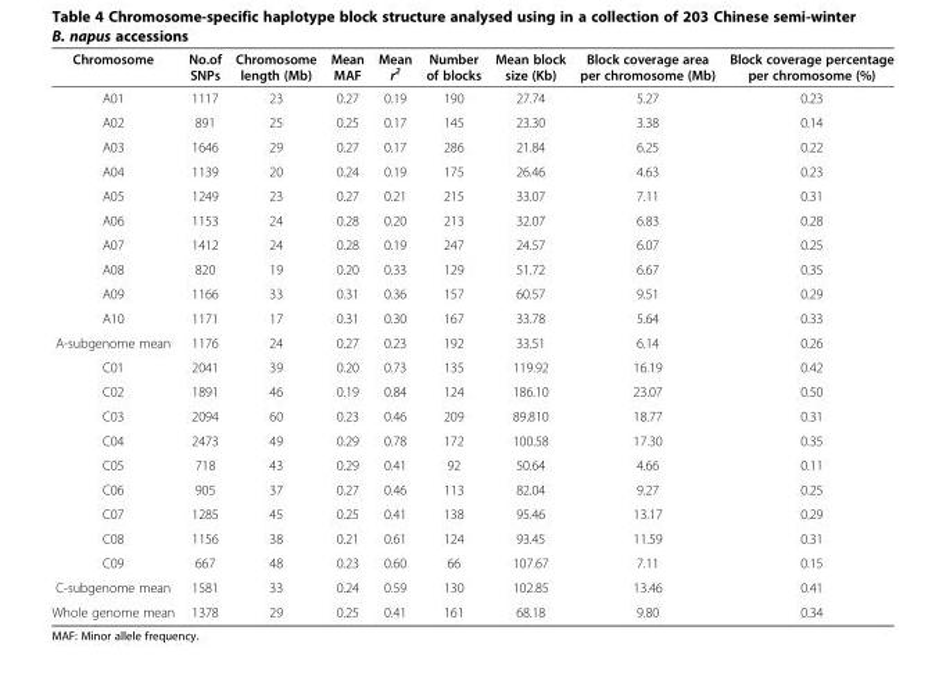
<table><thead><tr><td>Chromosome</td><td>No.of SNPs</td><td>Chromosome length (Mb)</td><td>Mean MAF</td><td>Mean r<sup>2</sup></td><td>Number of blocks</td><td>Mean block size (Kb)</td><td>Block coverage area per chromosome (Mb)</td><td>Block coverage percentage per chromosome (%)</td></tr></thead><tbody><tr><td>A01</td><td>1117</td><td>23</td><td>0.27</td><td>0.19</td><td>190</td><td>27.74</td><td>5.27</td><td>0.23</td></tr><tr><td>A02</td><td>891</td><td>25</td><td>0.25</td><td>0.17</td><td>145</td><td>23.30</td><td>3.38</td><td>0.14</td></tr><tr><td>A03</td><td>1646</td><td>29</td><td>0.27</td><td>0.17</td><td>286</td><td>21.84</td><td>6.25</td><td>0.22</td></tr><tr><td>A04</td><td>1139</td><td>20</td><td>0.24</td><td>0.19</td><td>175</td><td>26.46</td><td>4.63</td><td>0.23</td></tr><tr><td>A05</td><td>1249</td><td>23</td><td>0.27</td><td>0.21</td><td>215</td><td>33.07</td><td>7.11</td><td>0.31</td></tr><tr><td>A06</td><td>1153</td><td>24</td><td>0.28</td><td>0.20</td><td>213</td><td>32.07</td><td>6.83</td><td>0.28</td></tr><tr><td>A07</td><td>1412</td><td>24</td><td>0.28</td><td>0.19</td><td>247</td><td>24.57</td><td>6.07</td><td>0.25</td></tr><tr><td>A08</td><td>820</td><td>19</td><td>0.20</td><td>0.33</td><td>129</td><td>51.72</td><td>6.67</td><td>0.35</td></tr><tr><td>A09</td><td>1166</td><td>33</td><td>0.31</td><td>0.36</td><td>157</td><td>60.57</td><td>9.51</td><td>0.29</td></tr><tr><td>A10</td><td>1171</td><td>17</td><td>0.31</td><td>0.30</td><td>167</td><td>33.78</td><td>5.64</td><td>0.33</td></tr><tr><td>A-subgenome mean</td><td>1176</td><td>24</td><td>0.27</td><td>0.23</td><td>192</td><td>33.51</td><td>6.14</td><td>0.26</td></tr><tr><td>C01</td><td>2041</td><td>39</td><td>0.20</td><td>0.73</td><td>135</td><td>119.92</td><td>16.19</td><td>0.42</td></tr><tr><td>C02</td><td>1891</td><td>46</td><td>0.19</td><td>0.84</td><td>124</td><td>186.10</td><td>23.07</td><td>0.50</td></tr><tr><td>C03</td><td>2094</td><td>60</td><td>0.23</td><td>0.46</td><td>209</td><td>89.810</td><td>18.77</td><td>0.31</td></tr><tr><td>C04</td><td>2473</td><td>49</td><td>0.29</td><td>0.78</td><td>172</td><td>100.58</td><td>17.30</td><td>0.35</td></tr><tr><td>C05</td><td>718</td><td>43</td><td>0.29</td><td>0.41</td><td>92</td><td>50.64</td><td>4.66</td><td>0.11</td></tr><tr><td>C06</td><td>905</td><td>37</td><td>0.27</td><td>0.46</td><td>113</td><td>82.04</td><td>9.27</td><td>0.25</td></tr><tr><td>C07</td><td>1285</td><td>45</td><td>0.25</td><td>0.41</td><td>138</td><td>95.46</td><td>13.17</td><td>0.29</td></tr><tr><td>C08</td><td>1156</td><td>38</td><td>0.21</td><td>0.61</td><td>124</td><td>93.45</td><td>11.59</td><td>0.31</td></tr><tr><td>C09</td><td>667</td><td>48</td><td>0.23</td><td>0.60</td><td>66</td><td>107.67</td><td>7.11</td><td>0.15</td></tr><tr><td>C-subgenome mean</td><td>1581</td><td>33</td><td>0.24</td><td>0.59</td><td>130</td><td>102.85</td><td>13.46</td><td>0.41</td></tr><tr><td>Whole genome mean</td><td>1378</td><td>29</td><td>0.25</td><td>0.41</td><td>161</td><td>68.18</td><td>9.80</td><td>0.34</td></tr></tbody></table>